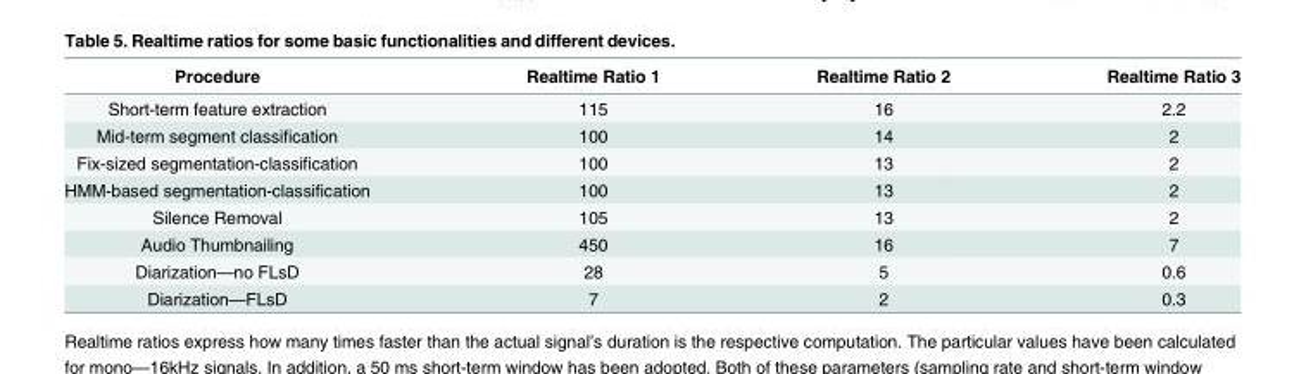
<table><thead><tr><td>Procedure</td><td>Realtime Ratio 1</td><td>Realtime Ratio 2</td><td>Realtime Ratio 3</td></tr></thead><tbody><tr><td>Short-term feature extraction</td><td>115</td><td>16</td><td>2.2</td></tr><tr><td>Mid-term segment classification</td><td>100</td><td>14</td><td>2</td></tr><tr><td>Fix-sized segmentation-classification</td><td>100</td><td>13</td><td>2</td></tr><tr><td>HMM-based segmentation-classification</td><td>100</td><td>13</td><td>2</td></tr><tr><td>Silence Removal</td><td>105</td><td>13</td><td>2</td></tr><tr><td>Audio Thumbnailing</td><td>450</td><td>16</td><td>7</td></tr><tr><td>Diarization—no FLsD</td><td>28</td><td>5</td><td>0.6</td></tr><tr><td>Diarization—FLsD</td><td>7</td><td>2</td><td>0.3</td></tr></tbody></table>